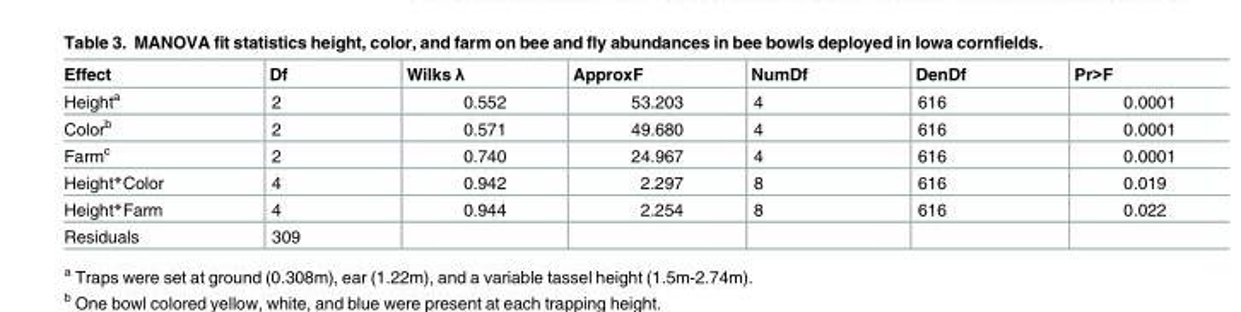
<table><thead><tr><td>Effect</td><td>Df</td><td>Wilks λ</td><td>ApproxF</td><td>NumDf</td><td>DenDf</td><td>Pr&gt;F</td></tr></thead><tbody><tr><td>Height<sup>a</sup></td><td>2</td><td>0.552</td><td>53.203</td><td>4</td><td>616</td><td>0.0001</td></tr><tr><td>Color<sup>b</sup></td><td>2</td><td>0.571</td><td>49.680</td><td>4</td><td>616</td><td>0.0001</td></tr><tr><td>Farm<sup>c</sup></td><td>2</td><td>0.740</td><td>24.967</td><td>4</td><td>616</td><td>0.0001</td></tr><tr><td>Height*Color</td><td>4</td><td>0.942</td><td>2.297</td><td>8</td><td>616</td><td>0.019</td></tr><tr><td>Height*Farm</td><td>4</td><td>0.944</td><td>2.254</td><td>8</td><td>616</td><td>0.022</td></tr><tr><td>Residuals</td><td>309</td><td></td><td></td><td></td><td></td><td></td></tr></tbody></table>